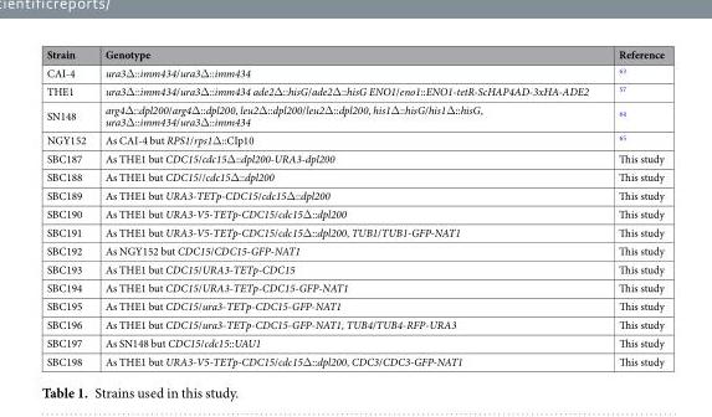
<table><thead><tr><td>Strain</td><td>Genotype</td><td>Reference</td></tr></thead><tbody><tr><td>CAI-4</td><td>ura3Δ::imm434/ura3Δ::imm434</td><td><sup>63</sup></td></tr><tr><td>THE1</td><td>ura3Δ::imm434/ura3Δ::imm434 ade2Δ::hisG/ade2Δ::hisG ENO1/eno1::ENO1-tetR-ScHAP4AD-3xHA-ADE2</td><td><sup>57</sup></td></tr><tr><td>SN148</td><td>arg4Δ::dpl200/arg4Δ::dpl200, leu2Δ::dpl200/leu2Δ::dpl200, his1Δ::hisG/his1Δ::hisG, ura3Δ::imm434/ura3Δ::imm434</td><td><sup>64</sup></td></tr><tr><td>NGY152</td><td>As CAI-4 but RPS1/rps1Δ::CIp10</td><td><sup>65</sup></td></tr><tr><td>SBC187</td><td>As THE1 but CDC15/cdc15Δ::dpl200-URA3-dpl200</td><td>This study</td></tr><tr><td>SBC188</td><td>As THE1 but CDC15//cdc15Δ::dpl200</td><td>This study</td></tr><tr><td>SBC189</td><td>As THE1 but URA3-TETp-CDC15/cdc15Δ::dpl200</td><td>This study</td></tr><tr><td>SBC190</td><td>As THE1 but URA3-V5-TETp-CDC15/cdc15Δ::dpl200</td><td>This study</td></tr><tr><td>SBC191</td><td>As THE1 but URA3-V5-TETp-CDC15/cdc15Δ::dpl200, TUB1/TUB1-GFP-NAT1</td><td>This study</td></tr><tr><td>SBC192</td><td>As NGY152 but CDC15/CDC15-GFP-NAT1</td><td>This study</td></tr><tr><td>SBC193</td><td>As THE1 but CDC15/URA3-TETp-CDC15</td><td>This study</td></tr><tr><td>SBC194</td><td>As THE1 but CDC15/URA3-TETp-CDC15-GFP-NAT1</td><td>This study</td></tr><tr><td>SBC195</td><td>As THE1 but CDC15/ura3-TETp-CDC15-GFP-NAT1</td><td>This study</td></tr><tr><td>SBC196</td><td>As THE1 but CDC15/ura3-TETp-CDC15-GFP-NAT1, TUB4/TUB4-RFP-URA3</td><td>This study</td></tr><tr><td>SBC197</td><td>As SN148 but CDC15/cdc15::UAU1</td><td>This study</td></tr><tr><td>SBC198</td><td>As THE1 but URA3-V5-TETp-CDC15/cdc15Δ::dpl200, CDC3/CDC3-GFP-NAT1</td><td>This study</td></tr></tbody></table>